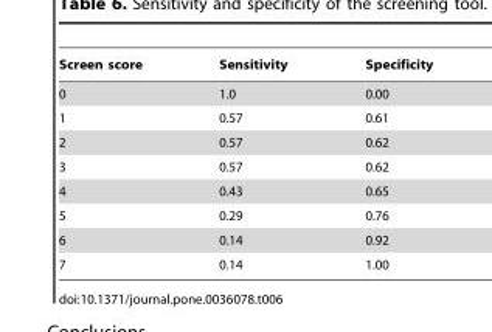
<table><thead><tr><td>Screen score</td><td>Sensitivity</td><td>Specificity</td></tr></thead><tbody><tr><td>0</td><td>1.0</td><td>0.00</td></tr><tr><td>1</td><td>0.57</td><td>0.61</td></tr><tr><td>2</td><td>0.57</td><td>0.62</td></tr><tr><td>3</td><td>0.57</td><td>0.62</td></tr><tr><td>4</td><td>0.43</td><td>0.65</td></tr><tr><td>5</td><td>0.29</td><td>0.76</td></tr><tr><td>6</td><td>0.14</td><td>0.92</td></tr><tr><td>7</td><td>0.14</td><td>1.00</td></tr></tbody></table>